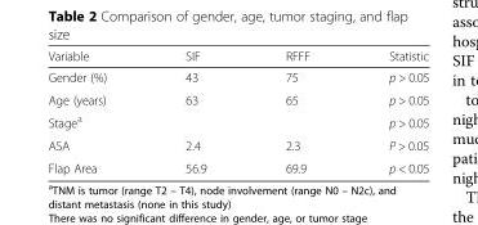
<table><thead><tr><td>Variable</td><td>SIF</td><td>RFFF</td><td>Statistic</td></tr></thead><tbody><tr><td>Gender (%)</td><td>43</td><td>75</td><td>p &gt; 0.05</td></tr><tr><td>Age (years)</td><td>63</td><td>65</td><td>p &gt; 0.05</td></tr><tr><td>Stage<sup>a</sup></td><td></td><td></td><td>p &gt; 0.05</td></tr><tr><td>ASA</td><td>2.4</td><td>2.3</td><td>P &gt; 0.05</td></tr><tr><td>Flap Area</td><td>56.9</td><td>69.9</td><td>p &lt; 0.05</td></tr></tbody></table>